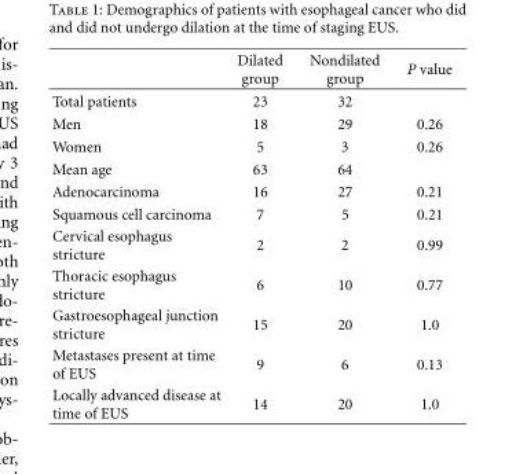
<table><thead><tr><td></td><td>Dilated group</td><td>Nondilated group</td><td>P value</td></tr></thead><tbody><tr><td>Total patients</td><td>23</td><td>32</td><td></td></tr><tr><td>Men</td><td>18</td><td>29</td><td>0.26</td></tr><tr><td>Women</td><td>5</td><td>3</td><td>0.26</td></tr><tr><td>Mean age</td><td>63</td><td>64</td><td></td></tr><tr><td>Adenocarcinoma</td><td>16</td><td>27</td><td>0.21</td></tr><tr><td>Squamous cell carcinoma</td><td>7</td><td>5</td><td>0.21</td></tr><tr><td>Cervical esophagus stricture</td><td>2</td><td>2</td><td>0.99</td></tr><tr><td>Thoracic esophagus stricture</td><td>6</td><td>10</td><td>0.77</td></tr><tr><td>Gastroesophageal junction stricture</td><td>15</td><td>20</td><td>1.0</td></tr><tr><td>Metastases present at time of EUS</td><td>9</td><td>6</td><td>0.13</td></tr><tr><td>Locally advanced disease at time of EUS</td><td>14</td><td>20</td><td>1.0</td></tr></tbody></table>